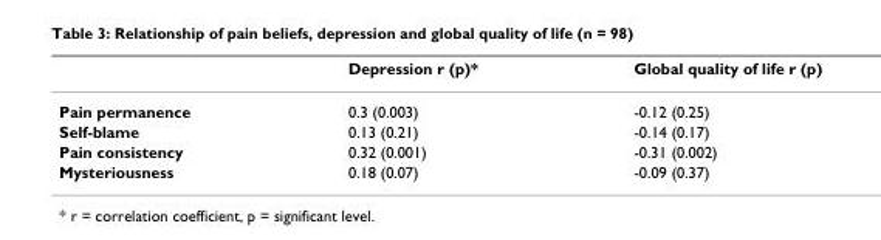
<table><thead><tr><td></td><td>Depression r (p)*</td><td>Global quality of life r (p)</td></tr></thead><tbody><tr><td>Pain permanence</td><td>0.3 (0.003)</td><td>-0.12 (0.25)</td></tr><tr><td>Self-blame</td><td>0.13 (0.21)</td><td>-0.14 (0.17)</td></tr><tr><td>Pain consistency</td><td>0.32 (0.001)</td><td>-0.31 (0.002)</td></tr><tr><td>Mysteriousness</td><td>0.18 (0.07)</td><td>-0.09 (0.37)</td></tr></tbody></table>